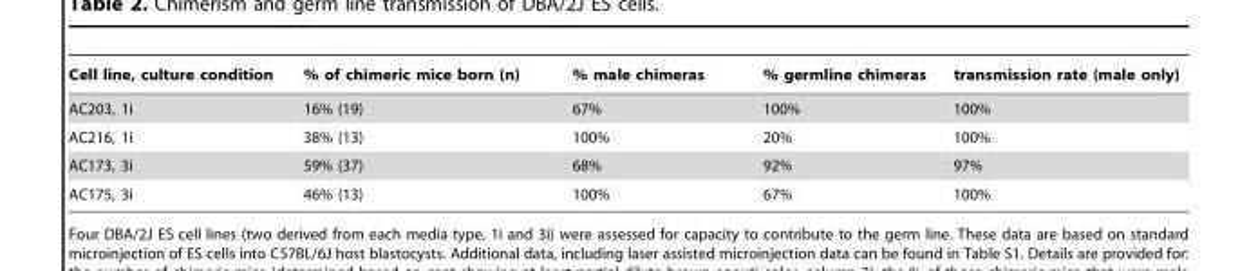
<table><thead><tr><td>Cell line, culture condition</td><td>% of chimeric mice born (n)</td><td>% male chimeras</td><td>% germline chimeras</td><td>transmission rate (male only)</td></tr></thead><tbody><tr><td>AC203, 1i</td><td>16% (19)</td><td>67%</td><td>100%</td><td>100%</td></tr><tr><td>AC216, 1i</td><td>38% (13)</td><td>100%</td><td>20%</td><td>100%</td></tr><tr><td>AC173, 3i</td><td>59% (37)</td><td>68%</td><td>92%</td><td>97%</td></tr><tr><td>AC175, 3i</td><td>46% (13)</td><td>100%</td><td>67%</td><td>100%</td></tr></tbody></table>